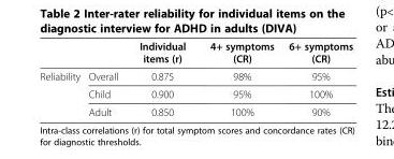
<table><thead><tr><td></td><td></td><td>Individual items (r)</td><td>4+ symptoms (CR)</td><td>6+ symptoms (CR)</td></tr></thead><tbody><tr><td rowspan="3">Reliability</td><td>Overall</td><td>0.875</td><td>98%</td><td>95%</td></tr><tr><td>Child</td><td>0.900</td><td>95%</td><td>100%</td></tr><tr><td>Adult</td><td>0.850</td><td>100%</td><td>90%</td></tr></tbody></table>